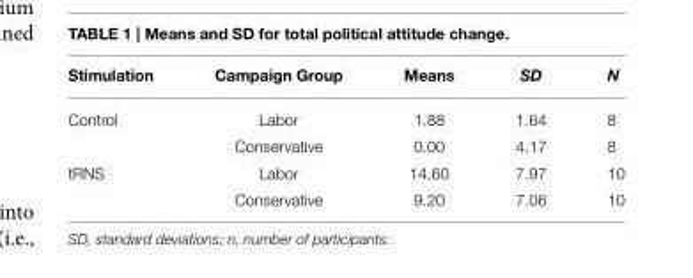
<table><thead><tr><td>Stimulation</td><td>Campaign Group</td><td>Means</td><td>SD</td><td>N</td></tr></thead><tbody><tr><td rowspan="2">Control</td><td>Labor</td><td>1.88</td><td>1.64</td><td>8</td></tr><tr><td>Conservative</td><td>0.00</td><td>4.17</td><td>8</td></tr><tr><td rowspan="2">tRNS</td><td>Labor</td><td>14.60</td><td>7.97</td><td>10</td></tr><tr><td>Conservative</td><td>9.20</td><td>7.06</td><td>10</td></tr></tbody></table>